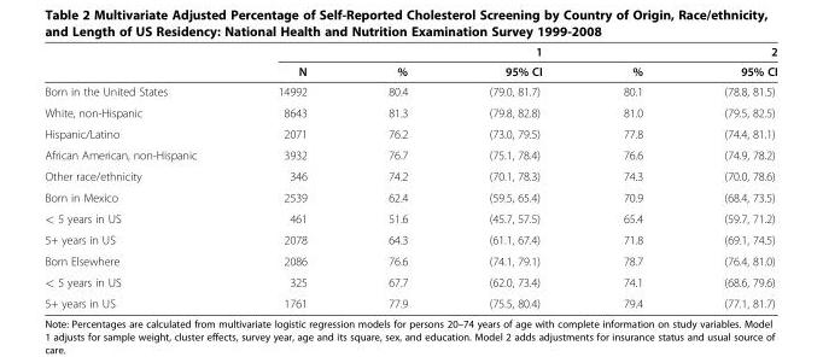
<table><thead><tr><td rowspan="2"></td><td rowspan="2">N</td><td colspan="2">1</td><td colspan="2">2</td></tr><tr><td>%</td><td>95% CI</td><td>%</td><td>95% CI</td></tr></thead><tbody><tr><td>Born in the United States</td><td>14992</td><td>80.4</td><td>(79.0, 81.7)</td><td>80.1</td><td>(78.8, 81.5)</td></tr><tr><td>White, non-Hispanic</td><td>8643</td><td>81.3</td><td>(79.8, 82.8)</td><td>81.0</td><td>(79.5, 82.5)</td></tr><tr><td>Hispanic/Latino</td><td>2071</td><td>76.2</td><td>(73.0, 79.5)</td><td>77.8</td><td>(74.4, 81.1)</td></tr><tr><td>African American, non-Hispanic</td><td>3932</td><td>76.7</td><td>(75.1, 78.4)</td><td>76.6</td><td>(74.9, 78.2)</td></tr><tr><td>Other race/ethnicity</td><td>346</td><td>74.2</td><td>(70.1, 78.3)</td><td>74.3</td><td>(70.0, 78.6)</td></tr><tr><td>Born in Mexico</td><td>2539</td><td>62.4</td><td>(59.5, 65.4)</td><td>70.9</td><td>(68.4, 73.5)</td></tr><tr><td>&lt; 5 years in US</td><td>461</td><td>51.6</td><td>(45.7, 57.5)</td><td>65.4</td><td>(59.7, 71.2)</td></tr><tr><td>5+ years in US</td><td>2078</td><td>64.3</td><td>(61.1, 67.4)</td><td>71.8</td><td>(69.1, 74.5)</td></tr><tr><td>Born Elsewhere</td><td>2086</td><td>76.6</td><td>(74.1, 79.1)</td><td>78.7</td><td>(76.4, 81.0)</td></tr><tr><td>&lt; 5 years in US</td><td>325</td><td>67.7</td><td>(62.0, 73.4)</td><td>74.1</td><td>(68.6, 79.6)</td></tr><tr><td>5+ years in US</td><td>1761</td><td>77.9</td><td>(75.5, 80.4)</td><td>79.4</td><td>(77.1, 81.7)</td></tr></tbody></table>